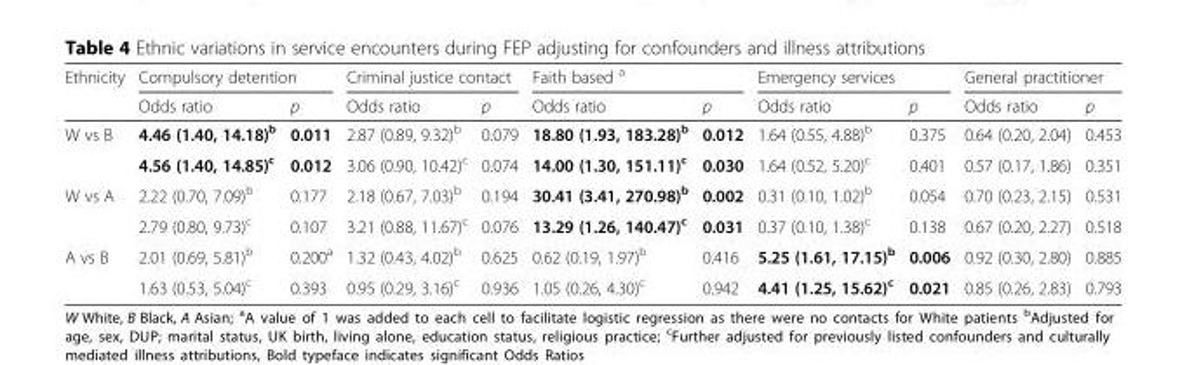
<table><thead><tr><td rowspan="2">Ethnicity</td><td colspan="2">Compulsory detention</td><td colspan="2">Criminal justice contact</td><td colspan="2">Faith based <sup>a</sup></td><td colspan="2">Emergency services</td><td colspan="2">General practitioner</td></tr><tr><td>Odds ratio</td><td>p</td><td>Odds ratio</td><td>p</td><td>Odds ratio</td><td>p</td><td>Odds ratio</td><td>p</td><td>Odds ratio</td><td>p</td></tr></thead><tbody><tr><td rowspan="2">W vs B</td><td>4.46 (1.40, 14.18)<sup>b</sup></td><td>0.011</td><td>2.87 (0.89, 9.32)<sup>b</sup></td><td>0.079</td><td>18.80 (1.93, 183.28)<sup>b</sup></td><td>0.012</td><td>1.64 (0.55, 4.88)<sup>b</sup></td><td>0.375</td><td>0.64 (0.20, 2.04)</td><td>0.453</td></tr><tr><td>4.56 (1.40, 14.85)<sup>c</sup></td><td>0.012</td><td>3.06 (0.90, 10.42)<sup>c</sup></td><td>0.074</td><td>14.00 (1.30, 151.11)<sup>c</sup></td><td>0.030</td><td>1.64 (0.52, 5.20)<sup>c</sup></td><td>0.401</td><td>0.57 (0.17, 1.86)</td><td>0.351</td></tr><tr><td rowspan="2">W vs A</td><td>2.22 (0.70, 7.09)<sup>b</sup></td><td>0.177</td><td>2.18 (0.67, 7.03)<sup>b</sup></td><td>0.194</td><td>30.41 (3.41, 270.98)<sup>b</sup></td><td>0.002</td><td>0.31 (0.10, 1.02)<sup>b</sup></td><td>0.054</td><td>0.70 (0.23, 2.15)</td><td>0.531</td></tr><tr><td>2.79 (0.80, 9.73)<sup>c</sup></td><td>0.107</td><td>3.21 (0.88, 11.67)<sup>c</sup></td><td>0.076</td><td>13.29 (1.26, 140.47)<sup>c</sup></td><td>0.031</td><td>0.37 (0.10, 1.38)<sup>c</sup></td><td>0.138</td><td>0.67 (0.20, 2.27)</td><td>0.518</td></tr><tr><td rowspan="2">A vs B</td><td>2.01 (0.69, 5.81)<sup>b</sup></td><td>0.200<sup>a</sup></td><td>1.32 (0.43, 4.02)<sup>b</sup></td><td>0.625</td><td>0.62 (0.19, 1.97)<sup>b</sup></td><td>0.416</td><td>5.25 (1.61, 17.15)<sup>b</sup></td><td>0.006</td><td>0.92 (0.30, 2.80)</td><td>0.885</td></tr><tr><td>1.63 (0.53, 5.04)<sup>c</sup></td><td>0.393</td><td>0.95 (0.29, 3.16)<sup>c</sup></td><td>0.936</td><td>1.05 (0.26, 4.30)<sup>c</sup></td><td>0.942</td><td>4.41 (1.25, 15.62)<sup>c</sup></td><td>0.021</td><td>0.85 (0.26, 2.83)</td><td>0.793</td></tr></tbody></table>